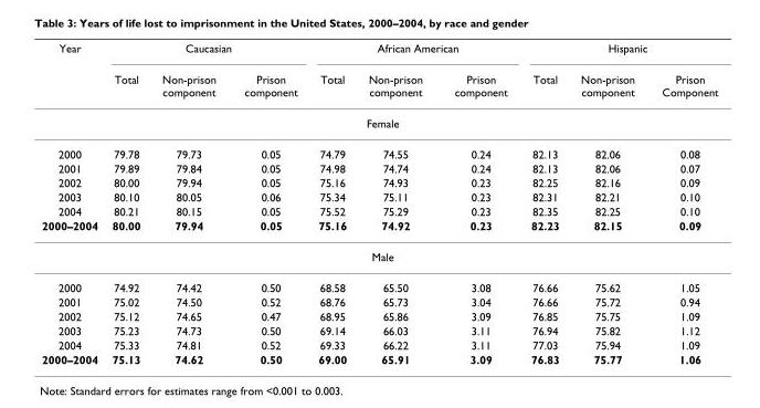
<table><thead><tr><td rowspan="2">Year</td><td colspan="3">Caucasian</td><td colspan="3">African American</td><td colspan="3">Hispanic</td></tr><tr><td>Total</td><td>Non-prison component</td><td>Prison component</td><td>Total</td><td>Non-prison component</td><td>Prison component</td><td>Total</td><td>Non-prison component</td><td>Prison Component</td></tr></thead><tbody><tr><td colspan="10">Female</td></tr><tr><td>2000</td><td>79.78</td><td>79.73</td><td>0.05</td><td>74.79</td><td>74.55</td><td>0.24</td><td>82.13</td><td>82.06</td><td>0.08</td></tr><tr><td>2001</td><td>79.89</td><td>79.84</td><td>0.05</td><td>74.98</td><td>74.74</td><td>0.24</td><td>82.13</td><td>82.06</td><td>0.07</td></tr><tr><td>2002</td><td>80.00</td><td>79.94</td><td>0.05</td><td>75.16</td><td>74.93</td><td>0.23</td><td>82.25</td><td>82.16</td><td>0.09</td></tr><tr><td>2003</td><td>80.10</td><td>80.05</td><td>0.06</td><td>75.34</td><td>75.11</td><td>0.23</td><td>82.31</td><td>82.21</td><td>0.10</td></tr><tr><td>2004</td><td>80.21</td><td>80.15</td><td>0.05</td><td>75.52</td><td>75.29</td><td>0.23</td><td>82.35</td><td>82.25</td><td>0.10</td></tr><tr><td>2000–2004</td><td>80.00</td><td>79.94</td><td>0.05</td><td>75.16</td><td>74.92</td><td>0.23</td><td>82.23</td><td>82.15</td><td>0.09</td></tr><tr><td colspan="10">Male</td></tr><tr><td>2000</td><td>74.92</td><td>74.42</td><td>0.50</td><td>68.58</td><td>65.50</td><td>3.08</td><td>76.66</td><td>75.62</td><td>1.05</td></tr><tr><td>2001</td><td>75.02</td><td>74.50</td><td>0.52</td><td>68.76</td><td>65.73</td><td>3.04</td><td>76.66</td><td>75.72</td><td>0.94</td></tr><tr><td>2002</td><td>75.12</td><td>74.65</td><td>0.47</td><td>68.95</td><td>65.86</td><td>3.09</td><td>76.85</td><td>75.75</td><td>1.09</td></tr><tr><td>2003</td><td>75.23</td><td>74.73</td><td>0.50</td><td>69.14</td><td>66.03</td><td>3.11</td><td>76.94</td><td>75.82</td><td>1.12</td></tr><tr><td>2004</td><td>75.33</td><td>74.81</td><td>0.52</td><td>69.33</td><td>66.22</td><td>3.11</td><td>77.03</td><td>75.94</td><td>1.09</td></tr><tr><td>2000–2004</td><td>75.13</td><td>74.62</td><td>0.50</td><td>69.00</td><td>65.91</td><td>3.09</td><td>76.83</td><td>75.77</td><td>1.06</td></tr></tbody></table>